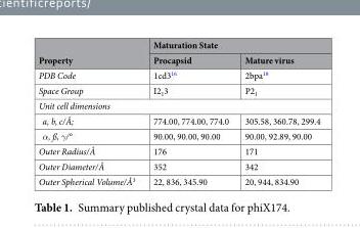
<table><thead><tr><td rowspan="2">Property</td><td colspan="2">Maturation State</td></tr><tr><td>Procapsid</td><td>Mature virus</td></tr></thead><tbody><tr><td>PDB Code</td><td>1cd3<sup>16</sup></td><td>2bpa<sup>18</sup></td></tr><tr><td>Space Group</td><td>I2<sub>1</sub>3</td><td>P2<sub>1</sub></td></tr><tr><td colspan="3">Unit cell dimensions</td></tr><tr><td>a, b, c/Å;</td><td>774.00, 774.00, 774.0</td><td>305.58, 360.78, 299.4</td></tr><tr><td>α, ß, γ/°</td><td>90.00, 90.00, 90.00</td><td>90.00, 92.89, 90.00</td></tr><tr><td>Outer Radius/Å</td><td>176</td><td>171</td></tr><tr><td>Outer Diameter/Å</td><td>352</td><td>342</td></tr><tr><td>Outer Spherical Volume/Å<sup>3</sup></td><td>22, 836, 345.90</td><td>20, 944, 834.90</td></tr></tbody></table>